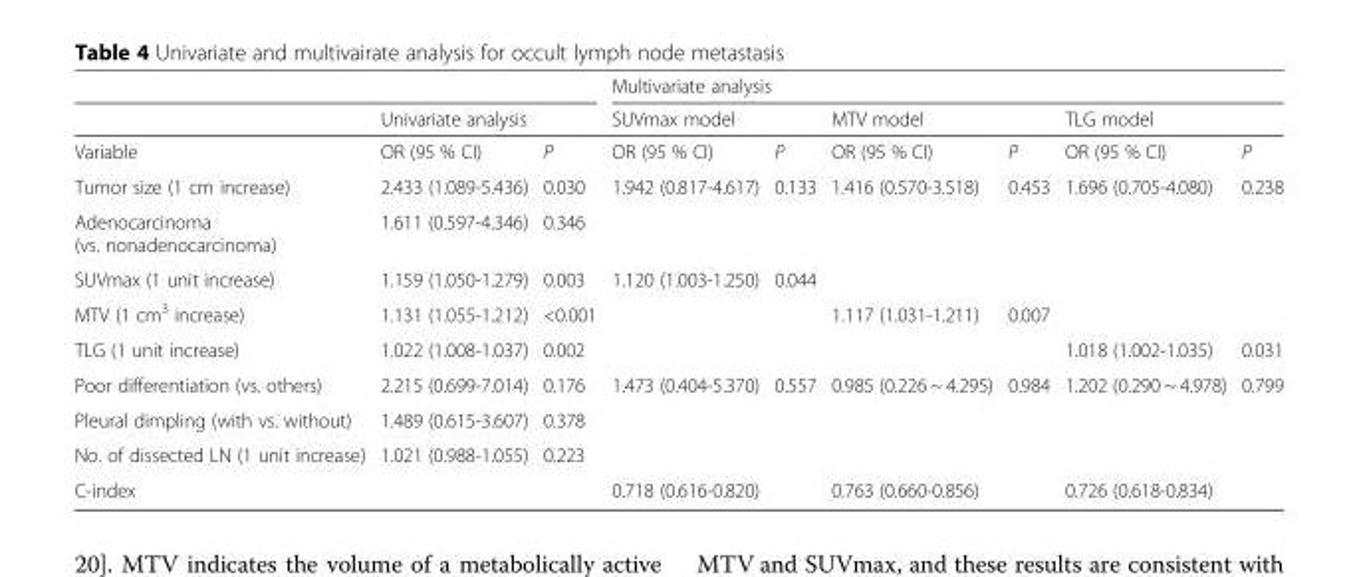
<table><thead><tr><td rowspan="3">Variable</td><td></td><td></td><td colspan="6">Multivariate analysis</td></tr><tr><td colspan="2">Univariate analysis</td><td colspan="2">SUVmax model</td><td colspan="2">MTV model</td><td colspan="2">TLG model</td></tr><tr><td>OR (95 % CI)</td><td>P</td><td>OR (95 % CI)</td><td>P</td><td>OR (95 % CI)</td><td>P</td><td>OR (95 % CI)</td><td>P</td></tr></thead><tbody><tr><td>Tumor size (1 cm increase)</td><td>2.433 (1.089-5.436)</td><td>0.030</td><td>1.942 (0.817-4.617)</td><td>0.133</td><td>1.416 (0.570-3.518)</td><td>0.453</td><td>1.696 (0.705-4.080)</td><td>0.238</td></tr><tr><td>Adenocarcinoma (vs. nonadenocarcinoma)</td><td>1.611 (0.597-4.346)</td><td>0.346</td><td></td><td></td><td></td><td></td><td></td><td></td></tr><tr><td>SUVmax (1 unit increase)</td><td>1.159 (1.050-1.279)</td><td>0.003</td><td>1.120 (1.003-1.250)</td><td>0.044</td><td></td><td></td><td></td><td></td></tr><tr><td>MTV (1 cm<sup>3</sup> increase)</td><td>1.131 (1.055-1.212)</td><td>&lt;0.001</td><td></td><td></td><td>1.117 (1.031-1.211)</td><td>0.007</td><td></td><td></td></tr><tr><td>TLG (1 unit increase)</td><td>1.022 (1.008-1.037)</td><td>0.002</td><td></td><td></td><td></td><td></td><td>1.018 (1.002-1.035)</td><td>0.031</td></tr><tr><td>Poor differentiation (vs. others)</td><td>2.215 (0.699-7.014)</td><td>0.176</td><td>1.473 (0.404-5.370)</td><td>0.557</td><td>0.985 (0.226 ~ 4.295)</td><td>0.984</td><td>1.202 (0.290 ~ 4.978)</td><td>0.799</td></tr><tr><td>Pleural dimpling (with vs. without)</td><td>1.489 (0.615-3.607)</td><td>0.378</td><td></td><td></td><td></td><td></td><td></td><td></td></tr><tr><td>No. of dissected LN (1 unit increase)</td><td>1.021 (0.988-1.055)</td><td>0.223</td><td></td><td></td><td></td><td></td><td></td><td></td></tr><tr><td>C-index</td><td></td><td></td><td>0.718 (0.616-0.820)</td><td></td><td>0.763 (0.660-0.856)</td><td></td><td>0.726 (0.618-0.834)</td><td></td></tr></tbody></table>